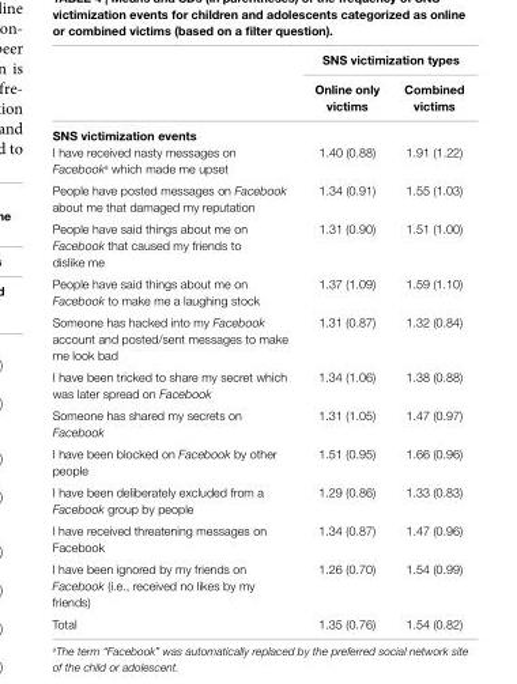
<table><thead><tr><td rowspan="2"></td><td colspan="2">sns victimization types</td></tr><tr><td>Online only victims</td><td>combined victims</td></tr></thead><tbody><tr><td colspan="3">sns victimization events</td></tr><tr><td>I have received nasty messages on Facebook<sup>a</sup> which made me upset</td><td>1.40 (0.88)</td><td>1.91 (1.22)</td></tr><tr><td>People have posted messages on Facebook about me that damaged my reputation</td><td>1.34 (0.91)</td><td>1.55 (1.03)</td></tr><tr><td>People have said things about me on Facebook that caused my friends to dislike me</td><td>1.31 (0.90)</td><td>1.51 (1.00)</td></tr><tr><td>People have said things about me on Facebook to make me a laughing stock</td><td>1.37 (1.09)</td><td>1.59 (1.10)</td></tr><tr><td>Someone has hacked into my Facebook account and posted/sent messages to make me look bad</td><td>1.31 (0.87)</td><td>1.32 (0.84)</td></tr><tr><td>I have been tricked to share my secret which was later spread on Facebook</td><td>1.34 (1.06)</td><td>1.38 (0.88)</td></tr><tr><td>Someone has shared my secrets on Facebook</td><td>1.31 (1.05)</td><td>1.47 (0.97)</td></tr><tr><td>I have been blocked on Facebook by other people</td><td>1.51 (0.95)</td><td>1.66 (0.96)</td></tr><tr><td>I have been deliberately excluded from a Facebook group by people</td><td>1.29 (0.86)</td><td>1.33 (0.83)</td></tr><tr><td>I have received threatening messages on Facebook</td><td>1.34 (0.87)</td><td>1.47 (0.96)</td></tr><tr><td>I have been ignored by my friends on Facebook (i.e., received no likes by my friends)</td><td>1.26 (0.70)</td><td>1.54 (0.99)</td></tr><tr><td>Total</td><td>1.35 (0.76)</td><td>1.54 (0.82)</td></tr></tbody></table>